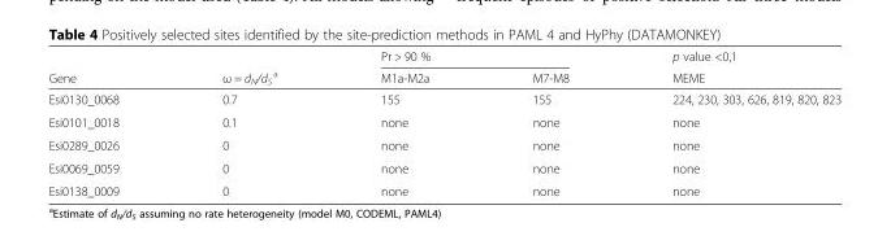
<table><thead><tr><td rowspan="2">Gene</td><td rowspan="2">ω = d<sub>N</sub>/d<sub>S</sub> <sup>a</sup></td><td colspan="2">Pr &gt; 90 %</td><td rowspan="2">p value &lt;0,1 MEME</td></tr><tr><td>M1a-M2a</td><td>M7-M8</td></tr></thead><tbody><tr><td>Esi0130_0068</td><td>0.7</td><td>155</td><td>155</td><td>224, 230, 303, 626, 819, 820, 823</td></tr><tr><td>Esi0101_0018</td><td>0.1</td><td>none</td><td>none</td><td>none</td></tr><tr><td>Esi0289_0026</td><td>0</td><td>none</td><td>none</td><td>none</td></tr><tr><td>Esi0069_0059</td><td>0</td><td>none</td><td>none</td><td>none</td></tr><tr><td>Esi0138_0009</td><td>0</td><td>none</td><td>none</td><td>none</td></tr></tbody></table>